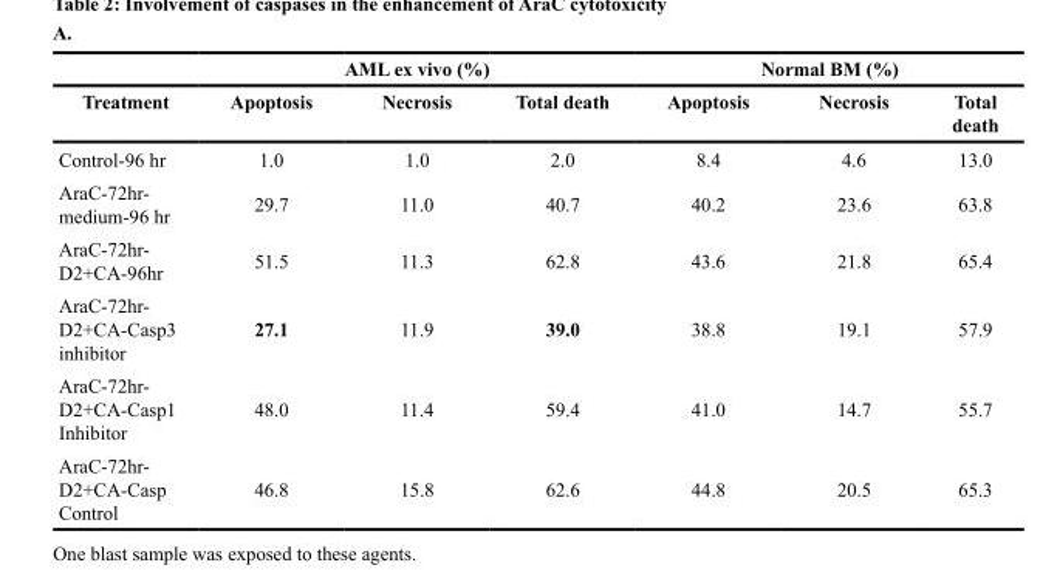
<table><thead><tr><td rowspan="2">Treatment</td><td colspan="3">AML ex vivo (%)</td><td colspan="3">Normal BM (%)</td></tr><tr><td>Apoptosis</td><td>Necrosis</td><td>Total death</td><td>Apoptosis</td><td>Necrosis</td><td>Total death</td></tr></thead><tbody><tr><td>Control-96 hr</td><td>1.0</td><td>1.0</td><td>2.0</td><td>8.4</td><td>4.6</td><td>13.0</td></tr><tr><td>AraC-72hr- medium-96 hr</td><td>29.7</td><td>11.0</td><td>40.7</td><td>40.2</td><td>23.6</td><td>63.8</td></tr><tr><td>AraC-72hr- D2+CA-96hr</td><td>51.5</td><td>11.3</td><td>62.8</td><td>43.6</td><td>21.8</td><td>65.4</td></tr><tr><td>AraC-72hr- D2+CA-Casp3 inhibitor</td><td>27.1</td><td>11.9</td><td>39.0</td><td>38.8</td><td>19.1</td><td>57.9</td></tr><tr><td>AraC-72hr- D2+CA-Casp1 Inhibitor</td><td>48.0</td><td>11.4</td><td>59.4</td><td>41.0</td><td>14.7</td><td>55.7</td></tr><tr><td>AraC-72hr- D2+CA-Casp Control</td><td>46.8</td><td>15.8</td><td>62.6</td><td>44.8</td><td>20.5</td><td>65.3</td></tr></tbody></table>